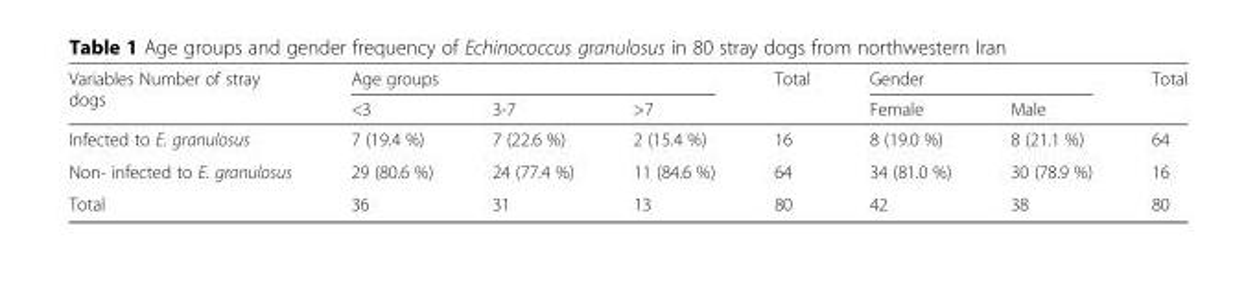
<table><thead><tr><td rowspan="2">Variables Number of stray dogs</td><td colspan="3">Age groups</td><td rowspan="2">Total</td><td colspan="2">Gender</td><td rowspan="2">Total</td></tr><tr><td>&lt;3</td><td>3-7</td><td>&gt;7</td><td>Female</td><td>Male</td></tr></thead><tbody><tr><td>Infected to E. granulosus</td><td>7 (19.4 %)</td><td>7 (22.6 %)</td><td>2 (15.4 %)</td><td>16</td><td>8 (19.0 %)</td><td>8 (21.1 %)</td><td>64</td></tr><tr><td>Non- infected to E. granulosus</td><td>29 (80.6 %)</td><td>24 (77.4 %)</td><td>11 (84.6 %)</td><td>64</td><td>34 (81.0 %)</td><td>30 (78.9 %)</td><td>16</td></tr><tr><td>Total</td><td>36</td><td>31</td><td>13</td><td>80</td><td>42</td><td>38</td><td>80</td></tr></tbody></table>